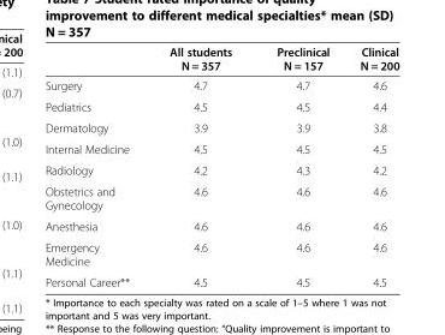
<table><thead><tr><td></td><td>All students N = 357</td><td>Preclinical N = 157</td><td>Clinical N = 200</td></tr></thead><tbody><tr><td>Surgery</td><td>4.7</td><td>4.7</td><td>4.6</td></tr><tr><td>Pediatrics</td><td>4.5</td><td>4.5</td><td>4.4</td></tr><tr><td>Dermatology</td><td>3.9</td><td>3.9</td><td>3.8</td></tr><tr><td>Internal Medicine</td><td>4.5</td><td>4.5</td><td>4.5</td></tr><tr><td>Radiology</td><td>4.2</td><td>4.3</td><td>4.2</td></tr><tr><td>Obstetrics and Gynecology</td><td>4.6</td><td>4.6</td><td>4.6</td></tr><tr><td>Anesthesia</td><td>4.6</td><td>4.6</td><td>4.6</td></tr><tr><td>Emergency Medicine</td><td>4.6</td><td>4.6</td><td>4.6</td></tr><tr><td>Personal Career**</td><td>4.5</td><td>4.5</td><td>4.5</td></tr></tbody></table>